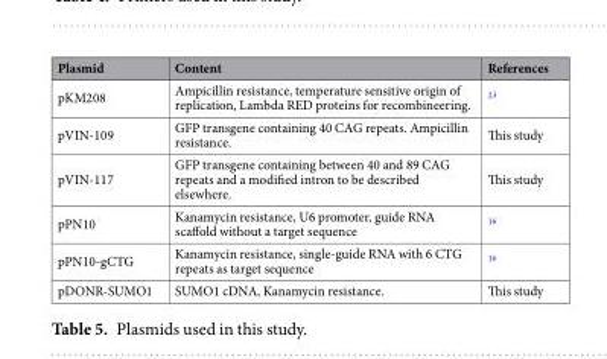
<table><thead><tr><td>Plasmid</td><td>Content</td><td>References</td></tr></thead><tbody><tr><td>pKM208</td><td>Ampicillin resistance, temperature sensitive origin of replication, Lambda RED proteins for recombineering.</td><td><sup>23</sup></td></tr><tr><td>pVIN-109</td><td>GFP transgene containing 40 CAG repeats. Ampicillin resistance.</td><td>This study</td></tr><tr><td>pVIN-117</td><td>GFP transgene containing between 40 and 89 CAG repeats and a modified intron to be described elsewhere.</td><td>This study</td></tr><tr><td>pPN10</td><td>Kanamycin resistance, U6 promoter, guide RNA scaffold without a target sequence</td><td><sup>16</sup></td></tr><tr><td>pPN10-gCTG</td><td>Kanamycin resistance, single-guide RNA with 6 CTG repeats as target sequence</td><td><sup>16</sup></td></tr><tr><td>pDONR-SUMO1</td><td>SUMO1 cDNA, Kanamycin resistance.</td><td>This study</td></tr></tbody></table>